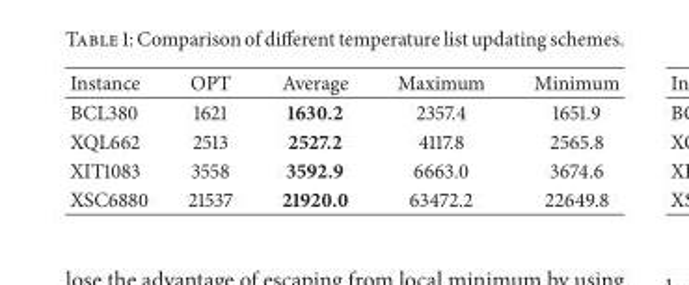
<table><thead><tr><td>Instance</td><td>OPT</td><td>Average</td><td>Maximum</td><td>Minimum</td></tr></thead><tbody><tr><td>BCL380</td><td>1621</td><td>1630.2</td><td>2357.4</td><td>1651.9</td></tr><tr><td>XQL662</td><td>2513</td><td>2527.2</td><td>4117.8</td><td>2565.8</td></tr><tr><td>XIT1083</td><td>3558</td><td>3592.9</td><td>6663.0</td><td>3674.6</td></tr><tr><td>XSC6880</td><td>21537</td><td>21920.0</td><td>63472.2</td><td>22649.8</td></tr></tbody></table>